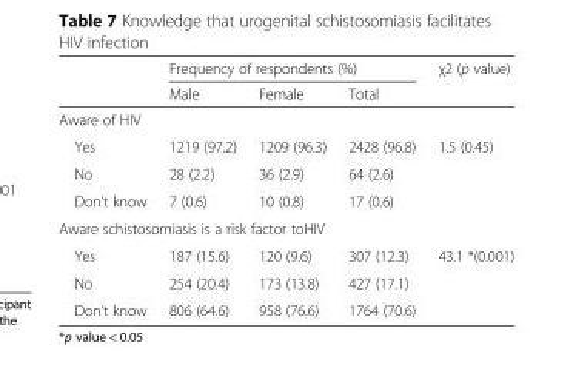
<table><thead><tr><td rowspan="2"></td><td colspan="3">Frequency of respondents (%)</td><td rowspan="2">χ2 (p value)</td></tr><tr><td>Male</td><td>Female</td><td>Total</td></tr></thead><tbody><tr><td colspan="5">Aware of HIV</td></tr><tr><td>Yes</td><td>1219 (97.2)</td><td>1209 (96.3)</td><td>2428 (96.8)</td><td rowspan="3">1.5 (0.45)</td></tr><tr><td>No</td><td>28 (2.2)</td><td>36 (2.9)</td><td>64 (2.6)</td></tr><tr><td>Don’t know</td><td>7 (0.6)</td><td>10 (0.8)</td><td>17 (0.6)</td></tr><tr><td colspan="5">Aware schistosomiasis is a risk factor toHIV</td></tr><tr><td>Yes</td><td>187 (15.6)</td><td>120 (9.6)</td><td>307 (12.3)</td><td rowspan="3">43.1 *(0.001)</td></tr><tr><td>No</td><td>254 (20.4)</td><td>173 (13.8)</td><td>427 (17.1)</td></tr><tr><td>Don’t know</td><td>806 (64.6)</td><td>958 (76.6)</td><td>1764 (70.6)</td></tr></tbody></table>